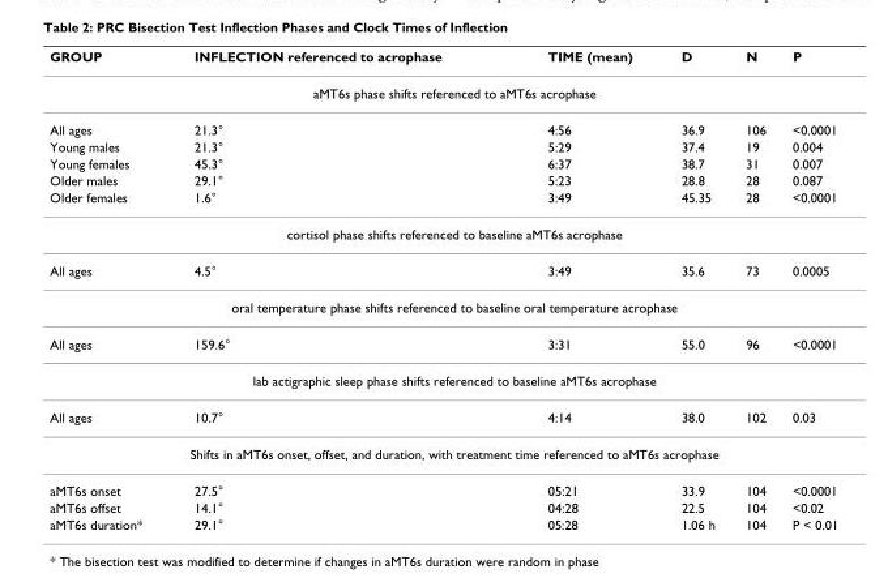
<table><thead><tr><td>GROUP</td><td>INFLECTION referenced to acrophase</td><td>TIME (mean)</td><td>D</td><td>N</td><td>P</td></tr></thead><tbody><tr><td colspan="6">aMT6s phase shifts referenced to aMT6s acrophase</td></tr><tr><td>All ages</td><td>21.3°</td><td>4:56</td><td>36.9</td><td>106</td><td>&lt;0.0001</td></tr><tr><td>Young males</td><td>21.3°</td><td>5:29</td><td>37.4</td><td>19</td><td>0.004</td></tr><tr><td>Young females</td><td>45.3°</td><td>6:37</td><td>38.7</td><td>31</td><td>0.007</td></tr><tr><td>Older males</td><td>29.1°</td><td>5:23</td><td>28.8</td><td>28</td><td>0.087</td></tr><tr><td>Older females</td><td>1.6°</td><td>3:49</td><td>45.35</td><td>28</td><td>&lt;0.0001</td></tr><tr><td colspan="6">cortisol phase shifts referenced to baseline aMT6s acrophase</td></tr><tr><td>All ages</td><td>4.5°</td><td>3:49</td><td>35.6</td><td>73</td><td>0.0005</td></tr><tr><td colspan="6">oral temperature phase shifts referenced to baseline oral temperature acrophase</td></tr><tr><td>All ages</td><td>159.6°</td><td>3:31</td><td>55.0</td><td>96</td><td>&lt;0.0001</td></tr><tr><td colspan="6">lab actigraphic sleep phase shifts referenced to baseline aMT6s acrophase</td></tr><tr><td>All ages</td><td>10.7°</td><td>4:14</td><td>38.0</td><td>102</td><td>0.03</td></tr><tr><td colspan="6">Shifts in aMT6s onset, offset, and duration, with treatment time referenced to aMT6s acrophase</td></tr><tr><td>aMT6s onset</td><td>27.5°</td><td>05:21</td><td>33.9</td><td>104</td><td>&lt;0.0001</td></tr><tr><td>aMT6s offset</td><td>14.1°</td><td>04:28</td><td>22.5</td><td>104</td><td>&lt;0.02</td></tr><tr><td>aMT6s duration*</td><td>29.1°</td><td>05:28</td><td>1.06 h</td><td>104</td><td>P &lt; 0.01</td></tr></tbody></table>